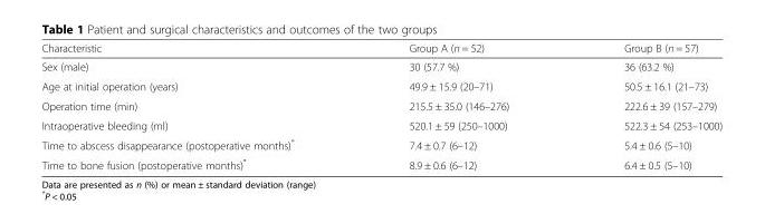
<table><thead><tr><td>Characteristic</td><td>Group A (n = 52)</td><td>Group B (n = 57)</td></tr></thead><tbody><tr><td>Sex (male)</td><td>30 (57.7 %)</td><td>36 (63.2 %)</td></tr><tr><td>Age at initial operation (years)</td><td>49.9 ± 15.9 (20–71)</td><td>50.5 ± 16.1 (21–73)</td></tr><tr><td>Operation time (min)</td><td>215.5 ± 35.0 (146–276)</td><td>222.6 ± 39 (157–279)</td></tr><tr><td>Intraoperative bleeding (ml)</td><td>520.1 ± 59 (250–1000)</td><td>522.3 ± 54 (253–1000)</td></tr><tr><td>Time to abscess disappearance (postoperative months)*</td><td>7.4 ± 0.7 (6–12)</td><td>5.4 ± 0.6 (5–10)</td></tr><tr><td>Time to bone fusion (postoperative months)*</td><td>8.9 ± 0.6 (6–12)</td><td>6.4 ± 0.5 (5–10)</td></tr></tbody></table>